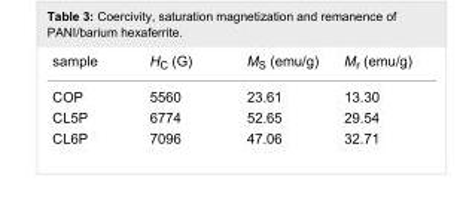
<table><tbody><tr><td>sample</td><td>H<sub>C</sub> (G)</td><td>M<sub>S</sub> (emu/g)</td><td>M<sub>r</sub> (emu/g)</td></tr><tr><td>COP</td><td>5560</td><td>23.61</td><td>13.30</td></tr><tr><td>CL5P</td><td>6774</td><td>52.65</td><td>29.54</td></tr><tr><td>CL6P</td><td>7096</td><td>47.06</td><td>32.71</td></tr></tbody></table>